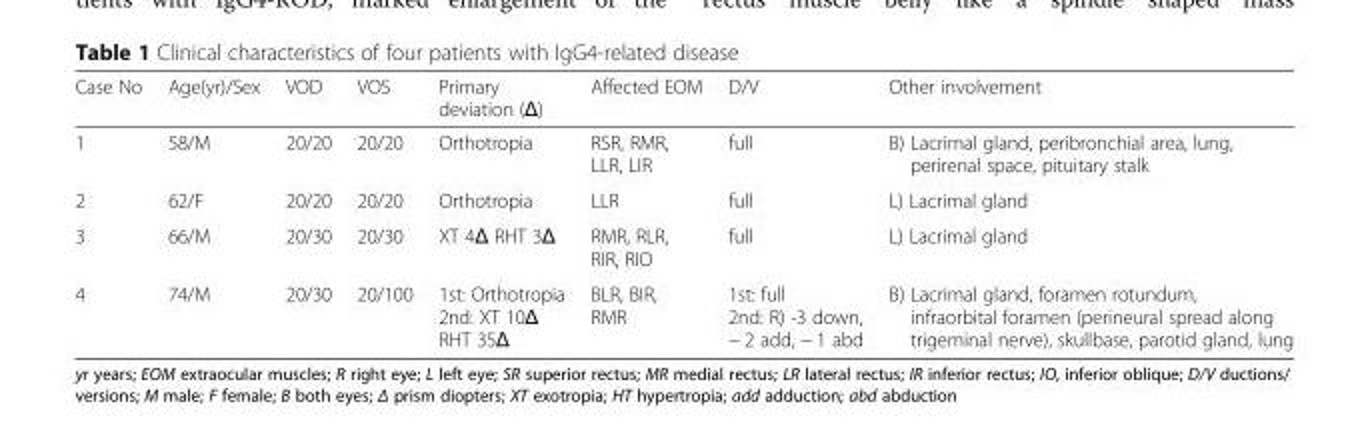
<table><thead><tr><td>Case No</td><td>Age(yr)/Sex</td><td>VOD</td><td>VOS</td><td>Primary deviation (Δ)</td><td>Affected EOM</td><td>D/V</td><td>Other involvement</td></tr></thead><tbody><tr><td>1</td><td>58/M</td><td>20/20</td><td>20/20</td><td>Orthotropia</td><td>RSR, RMR, LLR, LIR</td><td>full</td><td>B) Lacrimal gland, peribronchial area, lung, perirenal space, pituitary stalk</td></tr><tr><td>2</td><td>62/F</td><td>20/20</td><td>20/20</td><td>Orthotropia</td><td>LLR</td><td>full</td><td>L) Lacrimal gland</td></tr><tr><td>3</td><td>66/M</td><td>20/30</td><td>20/30</td><td>XT 4Δ RHT 3Δ</td><td>RMR, RLR, RIR, RIO</td><td>full</td><td>L) Lacrimal gland</td></tr><tr><td>4</td><td>74/M</td><td>20/30</td><td>20/100</td><td>1st: Orthotropia 2nd: XT 10Δ RHT 35Δ</td><td>BLR, BIR, RMR</td><td>1st: full 2nd: R) -3 down, − 2 add, − 1 abd</td><td>B) Lacrimal gland, foramen rotundum, infraorbital foramen (perineural spread along trigeminal nerve), skullbase, parotid gland, lung</td></tr></tbody></table>